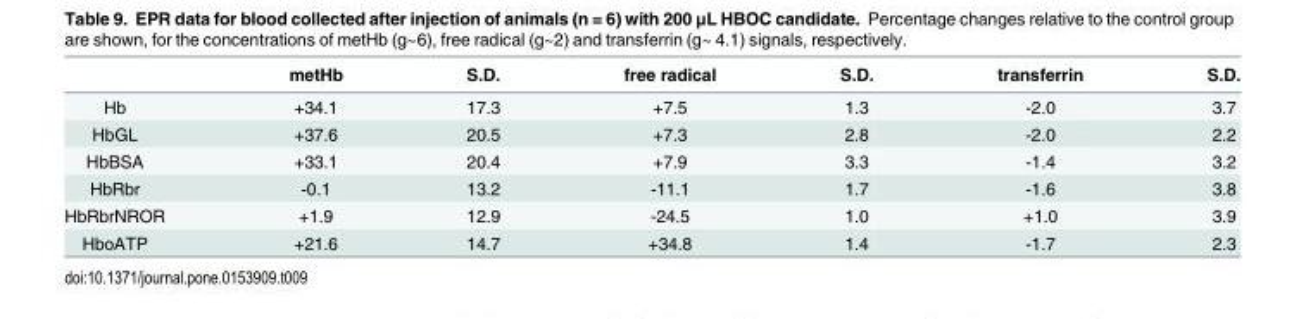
<table><thead><tr><td></td><td>metHb</td><td>S.D.</td><td>free radical</td><td>S.D.</td><td>transferrin</td><td>S.D.</td></tr></thead><tbody><tr><td>Hb</td><td>+34.1</td><td>17.3</td><td>+7.5</td><td>1.3</td><td>-2.0</td><td>3.7</td></tr><tr><td>HbGL</td><td>+37.6</td><td>20.5</td><td>+7.3</td><td>2.8</td><td>-2.0</td><td>2.2</td></tr><tr><td>HbBSA</td><td>+33.1</td><td>20.4</td><td>+7.9</td><td>3.3</td><td>-1.4</td><td>3.2</td></tr><tr><td>HbRbr</td><td>-0.1</td><td>13.2</td><td>-11.1</td><td>1.7</td><td>-1.6</td><td>3.8</td></tr><tr><td>HbRbrNROR</td><td>+1.9</td><td>12.9</td><td>-24.5</td><td>1.0</td><td>+1.0</td><td>3.9</td></tr><tr><td>HboATP</td><td>+21.6</td><td>14.7</td><td>+34.8</td><td>1.4</td><td>-1.7</td><td>2.3</td></tr></tbody></table>